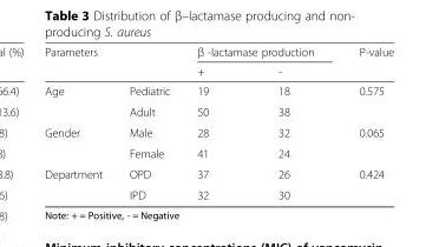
<table><thead><tr><td rowspan="2">Parameters</td><td rowspan="2"></td><td colspan="2">β -lactamase production</td><td rowspan="2">P-value</td></tr><tr><td>+</td><td>-</td></tr></thead><tbody><tr><td rowspan="2">Age</td><td>Pediatric</td><td>19</td><td>18</td><td rowspan="2">0.575</td></tr><tr><td>Adult</td><td>50</td><td>38</td></tr><tr><td rowspan="2">Gender</td><td>Male</td><td>28</td><td>32</td><td rowspan="2">0.065</td></tr><tr><td>Female</td><td>41</td><td>24</td></tr><tr><td rowspan="2">Department</td><td>OPD</td><td>37</td><td>26</td><td rowspan="2">0.424</td></tr><tr><td>IPD</td><td>32</td><td>30</td></tr></tbody></table>